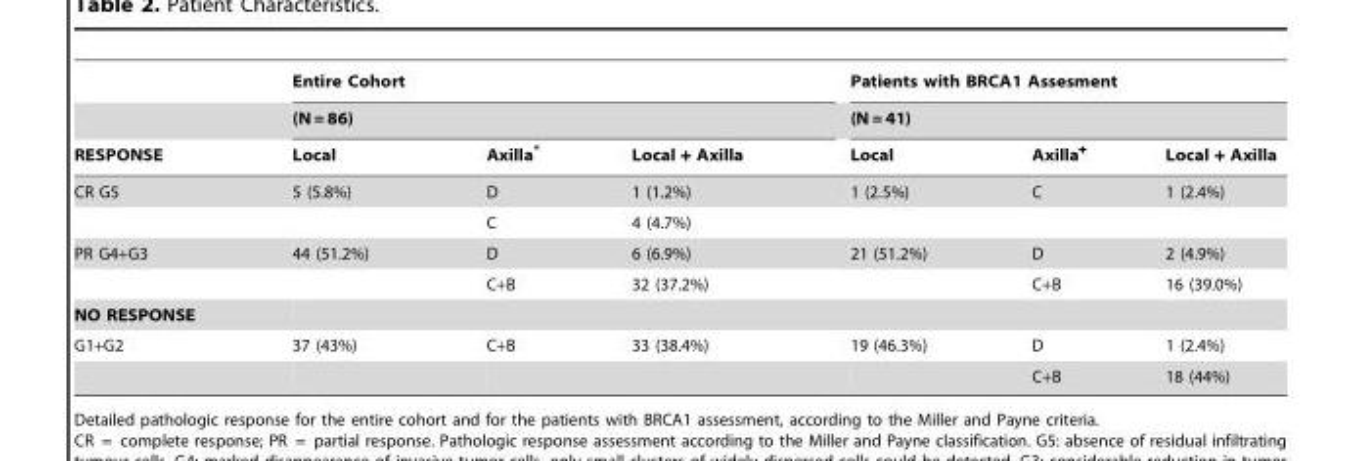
<table><thead><tr><td rowspan="3">RESPONSE</td><td rowspan="2" colspan="3">Entire Cohort (N = 86)</td><td rowspan="2" colspan="3">Patients with BRCA1 Assesment (N = 41)</td></tr><tr></tr><tr><td>Local</td><td>Axilla*</td><td>Local + Axilla</td><td>Local</td><td>Axilla+</td><td>Local + Axilla</td></tr></thead><tbody><tr><td rowspan="2">CR G5</td><td>5 (5.8%)</td><td>D</td><td>1 (1.2%)</td><td>1 (2.5%)</td><td>C</td><td>1 (2.4%)</td></tr><tr><td></td><td>C</td><td>4 (4.7%)</td><td></td><td></td><td></td></tr><tr><td rowspan="2">PR G4+G3</td><td>44 (51.2%)</td><td>D</td><td>6 (6.9%)</td><td>21 (51.2%)</td><td>D</td><td>2 (4.9%)</td></tr><tr><td></td><td>C+B</td><td>32 (37.2%)</td><td></td><td>C+B</td><td>16 (39.0%)</td></tr><tr><td colspan="7">NO RESPONSE</td></tr><tr><td rowspan="2">G1+G2</td><td>37 (43%)</td><td>C+B</td><td>33 (38.4%)</td><td>19 (46.3%)</td><td>D</td><td>1 (2.4%)</td></tr><tr><td></td><td></td><td></td><td></td><td>C+B</td><td>18 (44%)</td></tr></tbody></table>